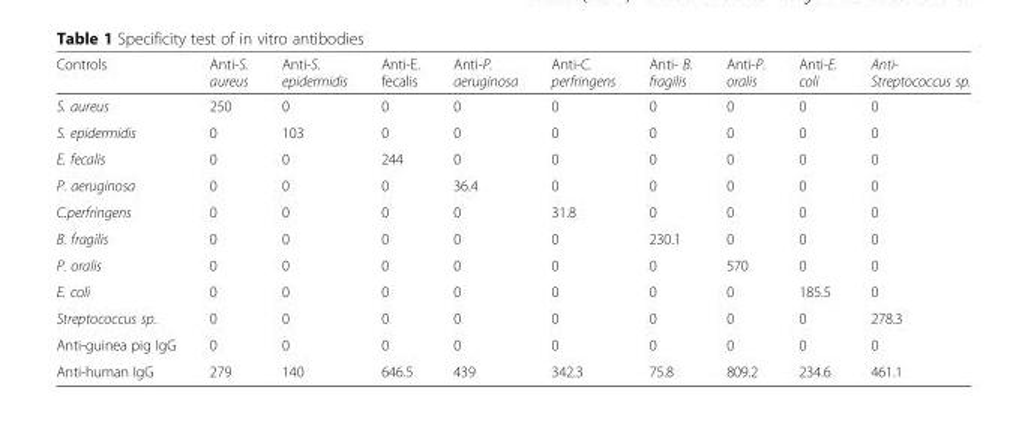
<table><thead><tr><td>Controls</td><td>Anti-S. aureus</td><td>Anti-S. epidermidis</td><td>Anti-E. fecalis</td><td>Anti-P. aeruginosa</td><td>Anti-C. perfringens</td><td>Anti- B. fragilis</td><td>Anti-P. oralis</td><td>Anti-E. coli</td><td>Anti- Streptococcus sp.</td></tr></thead><tbody><tr><td>S. aureus</td><td>250</td><td>0</td><td>0</td><td>0</td><td>0</td><td>0</td><td>0</td><td>0</td><td>0</td></tr><tr><td>S. epidermidis</td><td>0</td><td>103</td><td>0</td><td>0</td><td>0</td><td>0</td><td>0</td><td>0</td><td>0</td></tr><tr><td>E. fecalis</td><td>0</td><td>0</td><td>244</td><td>0</td><td>0</td><td>0</td><td>0</td><td>0</td><td>0</td></tr><tr><td>P. aeruginosa</td><td>0</td><td>0</td><td>0</td><td>36.4</td><td>0</td><td>0</td><td>0</td><td>0</td><td>0</td></tr><tr><td>C.perfringens</td><td>0</td><td>0</td><td>0</td><td>0</td><td>31.8</td><td>0</td><td>0</td><td>0</td><td>0</td></tr><tr><td>B. fragilis</td><td>0</td><td>0</td><td>0</td><td>0</td><td>0</td><td>230.1</td><td>0</td><td>0</td><td>0</td></tr><tr><td>P. oralis</td><td>0</td><td>0</td><td>0</td><td>0</td><td>0</td><td>0</td><td>570</td><td>0</td><td>0</td></tr><tr><td>E. coli</td><td>0</td><td>0</td><td>0</td><td>0</td><td>0</td><td>0</td><td>0</td><td>185.5</td><td>0</td></tr><tr><td>Streptococcus sp.</td><td>0</td><td>0</td><td>0</td><td>0</td><td>0</td><td>0</td><td>0</td><td>0</td><td>278.3</td></tr><tr><td>Anti-guinea pig IgG</td><td>0</td><td>0</td><td>0</td><td>0</td><td>0</td><td>0</td><td>0</td><td>0</td><td>0</td></tr><tr><td>Anti-human IgG</td><td>279</td><td>140</td><td>646.5</td><td>439</td><td>342.3</td><td>75.8</td><td>809.2</td><td>234.6</td><td>461.1</td></tr></tbody></table>